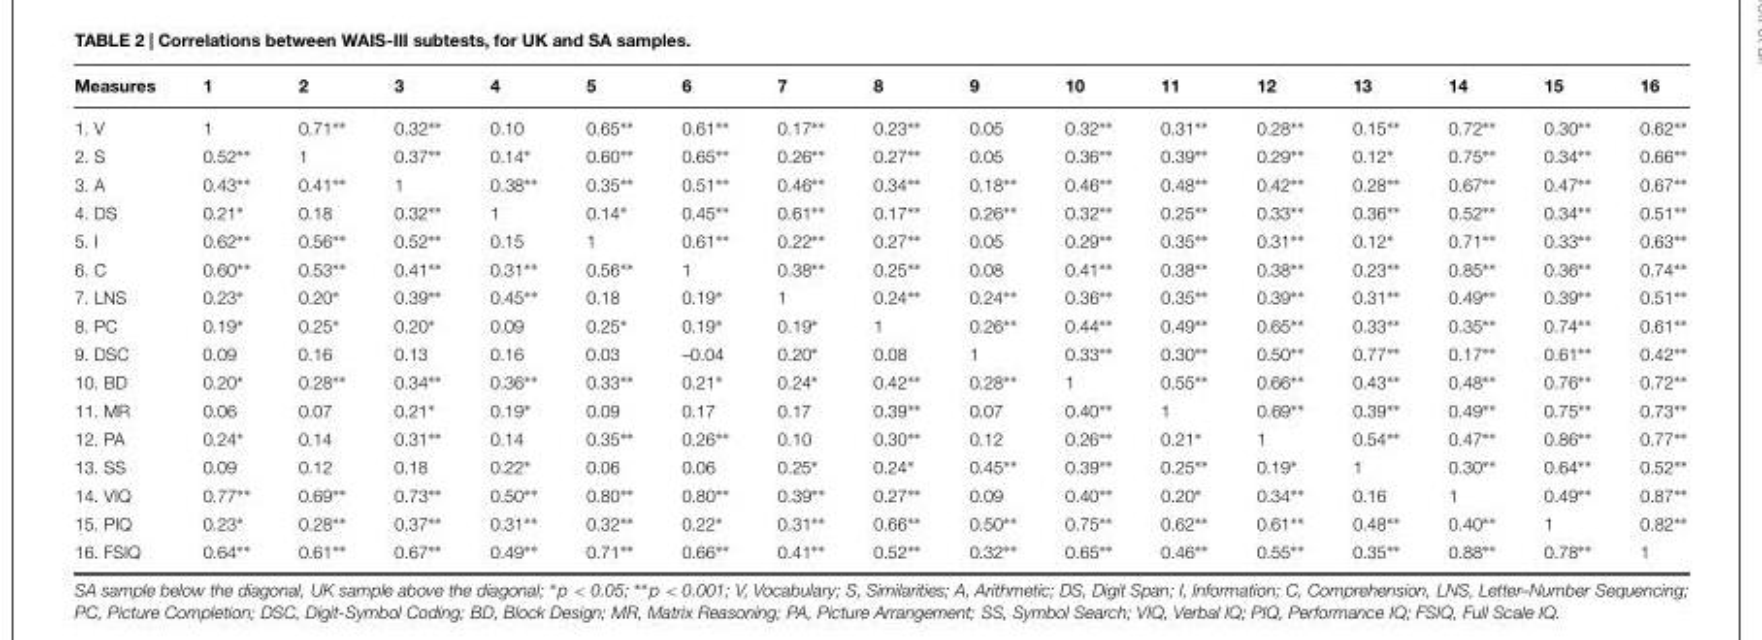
<table><thead><tr><td>Measures</td><td>1</td><td>2</td><td>3</td><td>4</td><td>5</td><td>6</td><td>7</td><td>8</td><td>9</td><td>10</td><td>11</td><td>12</td><td>13</td><td>14</td><td>15</td><td>16</td></tr></thead><tbody><tr><td>1. V</td><td>1</td><td>0.71∗∗</td><td>0.32∗∗</td><td>0.10</td><td>0.65∗∗</td><td>0.61∗∗</td><td>0.17∗∗</td><td>0.23∗∗</td><td>0.05</td><td>0.32∗∗</td><td>0.31∗∗</td><td>0.28∗∗</td><td>0.15∗∗</td><td>0.72∗∗</td><td>0.30∗∗</td><td>0.62∗∗</td></tr><tr><td>2. S</td><td>0.52∗∗</td><td>1</td><td>0.37∗∗</td><td>0.14∗</td><td>0.60∗∗</td><td>0.65∗∗</td><td>0.26∗∗</td><td>0.27∗∗</td><td>0.05</td><td>0.36∗∗</td><td>0.39∗∗</td><td>0.29∗∗</td><td>0.12∗</td><td>0.75∗∗</td><td>0.34∗∗</td><td>0.66∗∗</td></tr><tr><td>3. A</td><td>0.43∗∗</td><td>0.41∗∗</td><td>1</td><td>0.38∗∗</td><td>0.35∗∗</td><td>0.51∗∗</td><td>0.46∗∗</td><td>0.34∗∗</td><td>0.18∗∗</td><td>0.46∗∗</td><td>0.48∗∗</td><td>0.42∗∗</td><td>0.28∗∗</td><td>0.67∗∗</td><td>0.47∗∗</td><td>0.67∗∗</td></tr><tr><td>4. DS</td><td>0.21∗</td><td>0.18</td><td>0.32∗∗</td><td>1</td><td>0.14∗</td><td>0.45∗∗</td><td>0.61∗∗</td><td>0.17∗∗</td><td>0.26∗∗</td><td>0.32∗∗</td><td>0.25∗∗</td><td>0.33∗∗</td><td>0.36∗∗</td><td>0.52∗∗</td><td>0.34∗∗</td><td>0.51∗∗</td></tr><tr><td>5. I</td><td>0.62∗∗</td><td>0.56∗∗</td><td>0.52∗∗</td><td>0.15</td><td>1</td><td>0.61∗∗</td><td>0.22∗∗</td><td>0.27∗∗</td><td>0.05</td><td>0.29∗∗</td><td>0.35∗∗</td><td>0.31∗∗</td><td>0.12∗</td><td>0.71∗∗</td><td>0.33∗∗</td><td>0.63∗∗</td></tr><tr><td>6. C</td><td>0.60∗∗</td><td>0.53∗∗</td><td>0.41∗∗</td><td>0.31∗∗</td><td>0.56∗∗</td><td>1</td><td>0.38∗∗</td><td>0.25∗∗</td><td>0.08</td><td>0.41∗∗</td><td>0.38∗∗</td><td>0.38∗∗</td><td>0.23∗∗</td><td>0.85∗∗</td><td>0.36∗∗</td><td>0.74∗∗</td></tr><tr><td>7. LNS</td><td>0.23∗</td><td>0.20∗</td><td>0.39∗∗</td><td>0.45∗∗</td><td>0.18</td><td>0.19∗</td><td>1</td><td>0.24∗∗</td><td>0.24∗∗</td><td>0.36∗∗</td><td>0.35∗∗</td><td>0.39∗∗</td><td>0.31∗∗</td><td>0.49∗∗</td><td>0.39∗∗</td><td>0.51∗∗</td></tr><tr><td>8. PC</td><td>0.19∗</td><td>0.25∗</td><td>0.20∗</td><td>0.09</td><td>0.25∗</td><td>0.19∗</td><td>0.19∗</td><td>1</td><td>0.26∗∗</td><td>0.44∗∗</td><td>0.49∗∗</td><td>0.65∗∗</td><td>0.33∗∗</td><td>0.35∗∗</td><td>0.74∗∗</td><td>0.61∗∗</td></tr><tr><td>9. DSC</td><td>0.09</td><td>0.16</td><td>0.13</td><td>0.16</td><td>0.03</td><td>–0.04</td><td>0.20∗</td><td>0.08</td><td>1</td><td>0.33∗∗</td><td>0.30∗∗</td><td>0.50∗∗</td><td>0.77∗∗</td><td>0.17∗∗</td><td>0.61∗∗</td><td>0.42∗∗</td></tr><tr><td>10. BD</td><td>0.20∗</td><td>0.28∗∗</td><td>0.34∗∗</td><td>0.36∗∗</td><td>0.33∗∗</td><td>0.21∗</td><td>0.24∗</td><td>0.42∗∗</td><td>0.28∗∗</td><td>1</td><td>0.55∗∗</td><td>0.66∗∗</td><td>0.43∗∗</td><td>0.48∗∗</td><td>0.76∗∗</td><td>0.72∗∗</td></tr><tr><td>11. MR</td><td>0.06</td><td>0.07</td><td>0.21∗</td><td>0.19∗</td><td>0.09</td><td>0.17</td><td>0.17</td><td>0.39∗∗</td><td>0.07</td><td>0.40∗∗</td><td>1</td><td>0.69∗∗</td><td>0.39∗∗</td><td>0.49∗∗</td><td>0.75∗∗</td><td>0.73∗∗</td></tr><tr><td>12. PA</td><td>0.24∗</td><td>0.14</td><td>0.31∗∗</td><td>0.14</td><td>0.35∗∗</td><td>0.26∗∗</td><td>0.10</td><td>0.30∗∗</td><td>0.12</td><td>0.26∗∗</td><td>0.21∗</td><td>1</td><td>0.54∗∗</td><td>0.47∗∗</td><td>0.86∗∗</td><td>0.77∗∗</td></tr><tr><td>13. SS</td><td>0.09</td><td>0.12</td><td>0.18</td><td>0.22∗</td><td>0.06</td><td>0.06</td><td>0.25∗</td><td>0.24∗</td><td>0.45∗∗</td><td>0.39∗∗</td><td>0.25∗∗</td><td>0.19∗</td><td>1</td><td>0.30∗∗</td><td>0.64∗∗</td><td>0.52∗∗</td></tr><tr><td>14. VIQ</td><td>0.77∗∗</td><td>0.69∗∗</td><td>0.73∗∗</td><td>0.50∗∗</td><td>0.80∗∗</td><td>0.80∗∗</td><td>0.39∗∗</td><td>0.27∗∗</td><td>0.09</td><td>0.40∗∗</td><td>0.20∗</td><td>0.34∗∗</td><td>0.16</td><td>1</td><td>0.49∗∗</td><td>0.87∗∗</td></tr><tr><td>15. PIQ</td><td>0.23∗</td><td>0.28∗∗</td><td>0.37∗∗</td><td>0.31∗∗</td><td>0.32∗∗</td><td>0.22∗</td><td>0.31∗∗</td><td>0.66∗∗</td><td>0.50∗∗</td><td>0.75∗∗</td><td>0.62∗∗</td><td>0.61∗∗</td><td>0.48∗∗</td><td>0.40∗∗</td><td>1</td><td>0.82∗∗</td></tr><tr><td>16. FSIQ</td><td>0.64∗∗</td><td>0.61∗∗</td><td>0.67∗∗</td><td>0.49∗∗</td><td>0.71∗∗</td><td>0.66∗∗</td><td>0.41∗∗</td><td>0.52∗∗</td><td>0.32∗∗</td><td>0.65∗∗</td><td>0.46∗∗</td><td>0.55∗∗</td><td>0.35∗∗</td><td>0.88∗∗</td><td>0.78∗∗</td><td>1</td></tr></tbody></table>